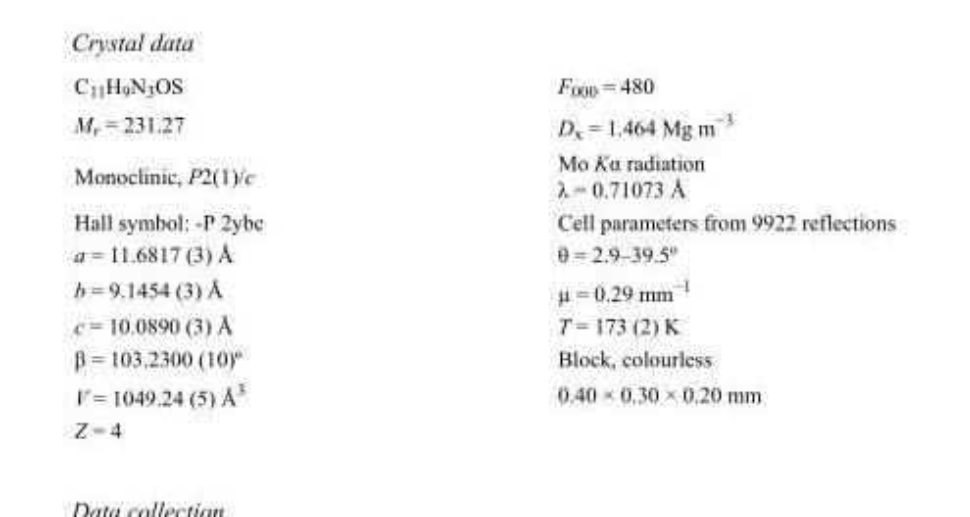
<table><tbody><tr><td>C<sub>11</sub>H<sub>9</sub>N<sub>3</sub>OS</td><td>F<sub>000</sub> = 480</td></tr><tr><td>M<sub>r</sub> = 231.27</td><td>D<sub>x</sub> = 1.464 Mg m<sup>−3</sup></td></tr><tr><td>Monoclinic, P2(1)/c</td><td>Mo Kα radiation λ = 0.71073 Å</td></tr><tr><td>Hall symbol: -P 2ybc</td><td>Cell parameters from 9922 reflections</td></tr><tr><td>a = 11.6817 (3) Å</td><td>θ = 2.9–39.5º</td></tr><tr><td>b = 9.1454 (3) Å</td><td>µ = 0.29 mm<sup>−1</sup></td></tr><tr><td>c = 10.0890 (3) Å</td><td>T = 173 (2) K</td></tr><tr><td>β = 103.2300 (10)º</td><td>Block, colourless</td></tr><tr><td>V = 1049.24 (5) Å<sup>3</sup></td><td>0.40 × 0.30 × 0.20 mm</td></tr><tr><td>Z = 4</td><td></td></tr></tbody></table>